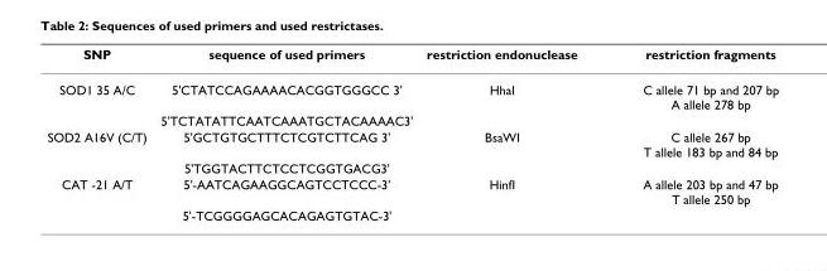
<table><thead><tr><td>SNP</td><td>sequence of used primers</td><td>restriction endonuclease</td><td>restriction fragments</td></tr></thead><tbody><tr><td rowspan="2">SOD1 35 A/C</td><td>5&#x27;CTATCCAGAAAACACGGTGGGCC 3&#x27;</td><td>HhaI</td><td>C allele 71 bp and 207 bp A allele 278 bp</td></tr><tr><td>5&#x27;TCTATATTCAATCAAATGCTACAAAAC3&#x27;</td><td></td><td></td></tr><tr><td rowspan="2">SOD2 A16V (C/T)</td><td>5&#x27;GCTGTGCTTTCTCGTCTTCAG 3&#x27;</td><td>BsaWI</td><td>C allele 267 bp T allele 183 bp and 84 bp</td></tr><tr><td>5&#x27;TGGTACTTCTCCTCGGTGACG3&#x27;</td><td></td><td></td></tr><tr><td rowspan="2">CAT -21 A/T</td><td>5&#x27;-AATCAGAAGGCAGTCCTCCC-3&#x27;</td><td>HinfI</td><td>A allele 203 bp and 47 bp T allele 250 bp</td></tr><tr><td>5&#x27;-TCGGGGAGCACAGAGTGTAC-3&#x27;</td><td></td><td></td></tr></tbody></table>